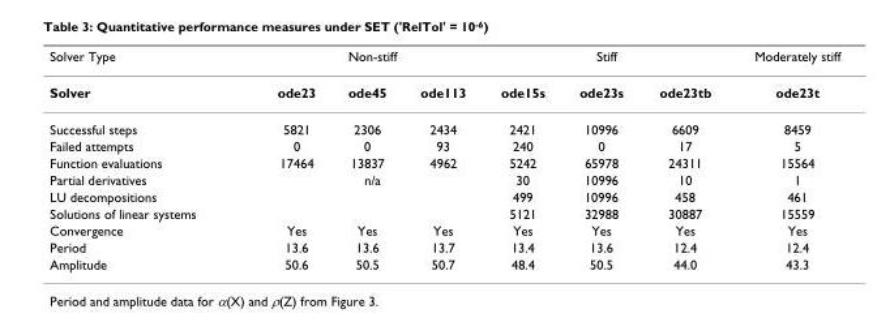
<table><thead><tr><td rowspan="2">Solver Type Solver</td><td colspan="3">Non-stiff</td><td colspan="3">Stiff</td><td rowspan="2">Moderately stiff ode23t</td></tr><tr><td>ode23</td><td>ode45</td><td>ode113</td><td>ode15s</td><td>ode23s</td><td>ode23tb</td></tr></thead><tbody><tr><td>Successful steps</td><td>5821</td><td>2306</td><td>2434</td><td>2421</td><td>10996</td><td>6609</td><td>8459</td></tr><tr><td>Failed attempts</td><td>0</td><td>0</td><td>93</td><td>240</td><td>0</td><td>17</td><td>5</td></tr><tr><td>Function evaluations</td><td>17464</td><td>13837</td><td>4962</td><td>5242</td><td>65978</td><td>24311</td><td>15564</td></tr><tr><td>Partial derivatives</td><td colspan="3">n/a</td><td>30</td><td>10996</td><td>10</td><td>1</td></tr><tr><td>LU decompositions</td><td></td><td></td><td></td><td>499</td><td>10996</td><td>458</td><td>461</td></tr><tr><td>Solutions of linear systems</td><td></td><td></td><td></td><td>5121</td><td>32988</td><td>30887</td><td>15559</td></tr><tr><td>Convergence</td><td>Yes</td><td>Yes</td><td>Yes</td><td>Yes</td><td>Yes</td><td>Yes</td><td>Yes</td></tr><tr><td>Period</td><td>13.6</td><td>13.6</td><td>13.7</td><td>13.4</td><td>13.6</td><td>12.4</td><td>12.4</td></tr><tr><td>Amplitude</td><td>50.6</td><td>50.5</td><td>50.7</td><td>48.4</td><td>50.5</td><td>44.0</td><td>43.3</td></tr></tbody></table>